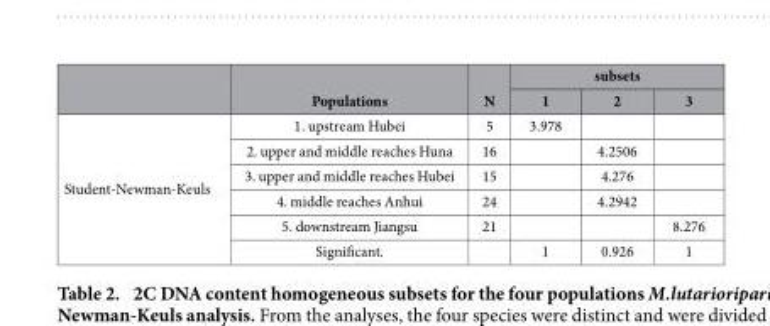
<table><thead><tr><td rowspan="2"></td><td rowspan="2">Populations</td><td rowspan="2">N</td><td colspan="3">subsets</td></tr><tr><td>1</td><td>2</td><td>3</td></tr></thead><tbody><tr><td rowspan="6">Student-Newman-Keuls</td><td>1. upstream Hubei</td><td>5</td><td>3.978</td><td></td><td></td></tr><tr><td>2. upper and middle reaches Huna</td><td>16</td><td></td><td>4.2506</td><td></td></tr><tr><td>3. upper and middle reaches Hubei</td><td>15</td><td></td><td>4.276</td><td></td></tr><tr><td>4. middle reaches Anhui</td><td>24</td><td></td><td>4.2942</td><td></td></tr><tr><td>5. downstream Jiangsu</td><td>21</td><td></td><td></td><td>8.276</td></tr><tr><td>Significant.</td><td></td><td>1</td><td>0.926</td><td>1</td></tr></tbody></table>